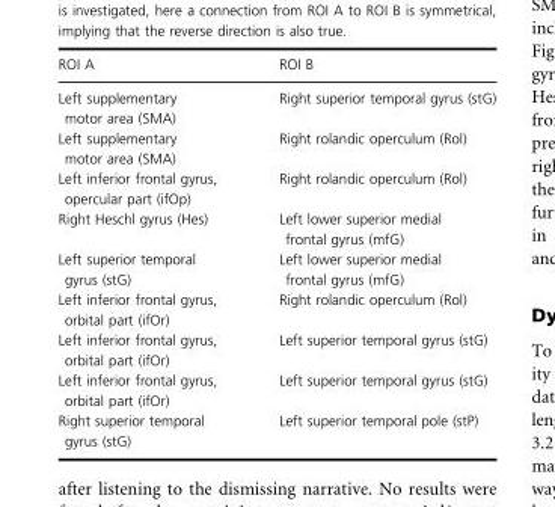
<table><thead><tr><td>ROI A</td><td>ROI B</td></tr></thead><tbody><tr><td>Left supplementary motor area (SMA)</td><td>Right superior temporal gyrus (stG)</td></tr><tr><td>Left supplementary motor area (SMA)</td><td>Right rolandic operculum (Rol)</td></tr><tr><td>Left inferior frontal gyrus, opercular part (ifOp)</td><td>Right rolandic operculum (Rol)</td></tr><tr><td>Right Heschl gyrus (Hes)</td><td>Left lower superior medial frontal gyrus (mfG)</td></tr><tr><td>Left superior temporal gyrus (stG)</td><td>Left lower superior medial frontal gyrus (mfG)</td></tr><tr><td>Left inferior frontal gyrus, orbital part (ifOr)</td><td>Right rolandic operculum (Rol)</td></tr><tr><td>Left inferior frontal gyrus, orbital part (ifOr)</td><td>Left superior temporal gyrus (stG)</td></tr><tr><td>Left inferior frontal gyrus, orbital part (ifOr)</td><td>Left superior temporal gyrus (stG)</td></tr><tr><td>Right superior temporal gyrus (stG)</td><td>Left superior temporal pole (stP)</td></tr></tbody></table>